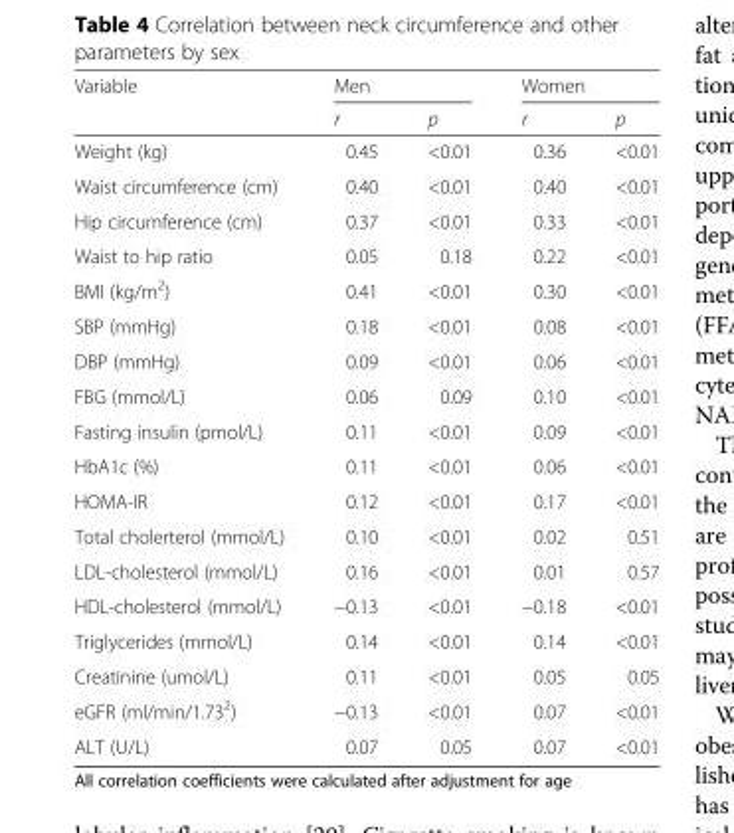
<table><thead><tr><td rowspan="2">Variable</td><td colspan="2">Men</td><td colspan="2">Women</td></tr><tr><td>r</td><td>p</td><td>r</td><td>p</td></tr></thead><tbody><tr><td>Weight (kg)</td><td>0.45</td><td>&lt;0.01</td><td>0.36</td><td>&lt;0.01</td></tr><tr><td>Waist circumference (cm)</td><td>0.40</td><td>&lt;0.01</td><td>0.40</td><td>&lt;0.01</td></tr><tr><td>Hip circumference (cm)</td><td>0.37</td><td>&lt;0.01</td><td>0.33</td><td>&lt;0.01</td></tr><tr><td>Waist to hip ratio</td><td>0.05</td><td>0.18</td><td>0.22</td><td>&lt;0.01</td></tr><tr><td>BMI (kg/m<sup>2</sup>)</td><td>0.41</td><td>&lt;0.01</td><td>0.30</td><td>&lt;0.01</td></tr><tr><td>SBP (mmHg)</td><td>0.18</td><td>&lt;0.01</td><td>0.08</td><td>&lt;0.01</td></tr><tr><td>DBP (mmHg)</td><td>0.09</td><td>&lt;0.01</td><td>0.06</td><td>&lt;0.01</td></tr><tr><td>FBG (mmol/L)</td><td>0.06</td><td>0.09</td><td>0.10</td><td>&lt;0.01</td></tr><tr><td>Fasting insulin (pmol/L)</td><td>0.11</td><td>&lt;0.01</td><td>0.09</td><td>&lt;0.01</td></tr><tr><td>HbA1c (%)</td><td>0.11</td><td>&lt;0.01</td><td>0.06</td><td>&lt;0.01</td></tr><tr><td>HOMA-IR</td><td>0.12</td><td>&lt;0.01</td><td>0.17</td><td>&lt;0.01</td></tr><tr><td>Total cholerterol (mmol/L)</td><td>0.10</td><td>&lt;0.01</td><td>0.02</td><td>0.51</td></tr><tr><td>LDL-cholesterol (mmol/L)</td><td>0.16</td><td>&lt;0.01</td><td>0.01</td><td>0.57</td></tr><tr><td>HDL-cholesterol (mmol/L)</td><td>−0.13</td><td>&lt;0.01</td><td>−0.18</td><td>&lt;0.01</td></tr><tr><td>Triglycerides (mmol/L)</td><td>0.14</td><td>&lt;0.01</td><td>0.14</td><td>&lt;0.01</td></tr><tr><td>Creatinine (umol/L)</td><td>0.11</td><td>&lt;0.01</td><td>0.05</td><td>0.05</td></tr><tr><td>eGFR (ml/min/1.73<sup>2</sup>)</td><td>−0.13</td><td>&lt;0.01</td><td>0.07</td><td>&lt;0.01</td></tr><tr><td>ALT (U/L)</td><td>0.07</td><td>0.05</td><td>0.07</td><td>&lt;0.01</td></tr></tbody></table>